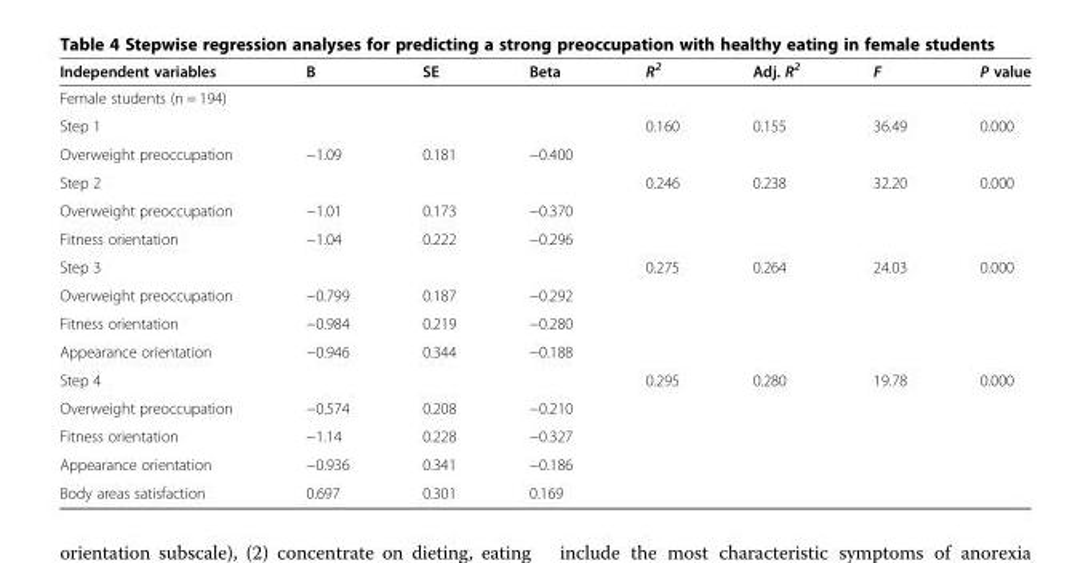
<table><thead><tr><td>Independent variables</td><td>B</td><td>SE</td><td>Beta</td><td>R<sup>2</sup></td><td>Adj. R<sup>2</sup></td><td>F</td><td>P value</td></tr></thead><tbody><tr><td colspan="8">Female students (n = 194)</td></tr><tr><td>Step 1</td><td></td><td></td><td></td><td>0.160</td><td>0.155</td><td>36.49</td><td>0.000</td></tr><tr><td>Overweight preoccupation</td><td>−1.09</td><td>0.181</td><td>−0.400</td><td></td><td></td><td></td><td></td></tr><tr><td>Step 2</td><td></td><td></td><td></td><td>0.246</td><td>0.238</td><td>32.20</td><td>0.000</td></tr><tr><td>Overweight preoccupation</td><td>−1.01</td><td>0.173</td><td>−0.370</td><td></td><td></td><td></td><td></td></tr><tr><td>Fitness orientation</td><td>−1.04</td><td>0.222</td><td>−0.296</td><td></td><td></td><td></td><td></td></tr><tr><td>Step 3</td><td></td><td></td><td></td><td>0.275</td><td>0.264</td><td>24.03</td><td>0.000</td></tr><tr><td>Overweight preoccupation</td><td>−0.799</td><td>0.187</td><td>−0.292</td><td rowspan="2"></td><td rowspan="2"></td><td rowspan="2"></td><td rowspan="2"></td></tr><tr><td>Fitness orientation</td><td>−0.984</td><td>0.219</td><td>−0.280</td></tr><tr><td>Appearance orientation</td><td>−0.946</td><td>0.344</td><td>−0.188</td><td></td><td></td><td></td><td></td></tr><tr><td>Step 4</td><td></td><td></td><td></td><td>0.295</td><td>0.280</td><td>19.78</td><td>0.000</td></tr><tr><td>Overweight preoccupation</td><td>−0.574</td><td>0.208</td><td>−0.210</td><td></td><td></td><td></td><td></td></tr><tr><td>Fitness orientation</td><td>−1.14</td><td>0.228</td><td>−0.327</td><td></td><td></td><td></td><td></td></tr><tr><td>Appearance orientation</td><td>−0.936</td><td>0.341</td><td>−0.186</td><td></td><td></td><td></td><td></td></tr><tr><td>Body areas satisfaction</td><td>0.697</td><td>0.301</td><td>0.169</td><td></td><td></td><td></td><td></td></tr></tbody></table>